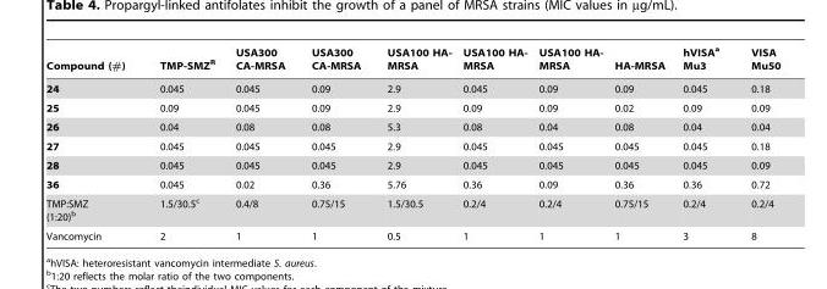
<table><thead><tr><td>Compound (#)</td><td>TMP-SMZ<sup>R</sup></td><td>USA300 CA-MRSA</td><td>USA300 CA-MRSA</td><td>USA100 HA- MRSA</td><td>USA100 HA- MRSA</td><td>USA100 HA- MRSA</td><td>HA-MRSA</td><td>hVISA<sup>a</sup> Mu3</td><td>VISA Mu50</td></tr></thead><tbody><tr><td>24</td><td>0.045</td><td>0.045</td><td>0.09</td><td>2.9</td><td>0.045</td><td>0.09</td><td>0.09</td><td>0.045</td><td>0.18</td></tr><tr><td>25</td><td>0.09</td><td>0.045</td><td>0.09</td><td>2.9</td><td>0.09</td><td>0.09</td><td>0.02</td><td>0.09</td><td>0.09</td></tr><tr><td>26</td><td>0.04</td><td>0.08</td><td>0.08</td><td>5.3</td><td>0.08</td><td>0.04</td><td>0.08</td><td>0.04</td><td>0.04</td></tr><tr><td>27</td><td>0.045</td><td>0.045</td><td>0.045</td><td>2.9</td><td>0.045</td><td>0.045</td><td>0.045</td><td>0.045</td><td>0.18</td></tr><tr><td>28</td><td>0.045</td><td>0.045</td><td>0.045</td><td>2.9</td><td>0.045</td><td>0.045</td><td>0.045</td><td>0.045</td><td>0.09</td></tr><tr><td>36</td><td>0.045</td><td>0.02</td><td>0.36</td><td>5.76</td><td>0.36</td><td>0.09</td><td>0.36</td><td>0.36</td><td>0.72</td></tr><tr><td>TMP:SMZ (1:20)b</td><td>1.5/30.5<sup>c</sup></td><td>0.4/8</td><td>0.75/15</td><td>1.5/30.5</td><td>0.2/4</td><td>0.2/4</td><td>0.75/15</td><td>0.2/4</td><td>0.2/4</td></tr><tr><td>Vancomycin</td><td>2</td><td>1</td><td>1</td><td>0.5</td><td>1</td><td>1</td><td>1</td><td>3</td><td>8</td></tr></tbody></table>